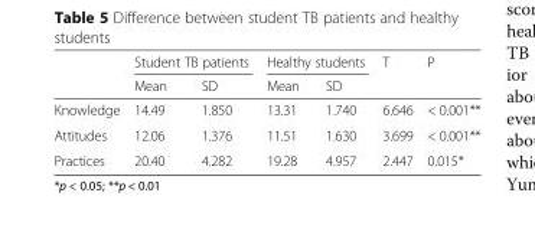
<table><thead><tr><td rowspan="2"></td><td colspan="2">Student TB patients</td><td colspan="2">Healthy students</td><td rowspan="2">T</td><td rowspan="2">P</td></tr><tr><td>Mean</td><td>SD</td><td>Mean</td><td>SD</td></tr></thead><tbody><tr><td>Knowledge</td><td>14.49</td><td>1.850</td><td>13.31</td><td>1.740</td><td>6.646</td><td>&lt; 0.001**</td></tr><tr><td>Attitudes</td><td>12.06</td><td>1.376</td><td>11.51</td><td>1.630</td><td>3.699</td><td>&lt; 0.001**</td></tr><tr><td>Practices</td><td>20.40</td><td>4.282</td><td>19.28</td><td>4.957</td><td>2.447</td><td>0.015*</td></tr></tbody></table>